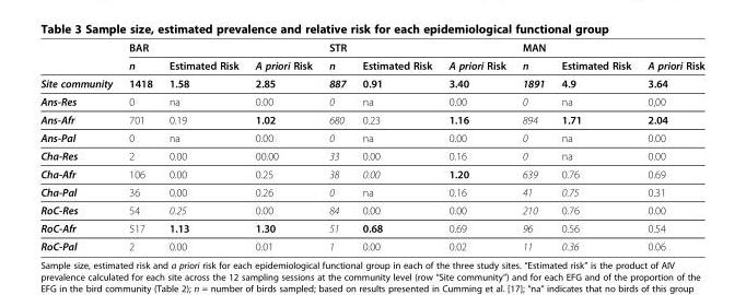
<table><thead><tr><td rowspan="2"></td><td colspan="3">BAR</td><td colspan="3">STR</td><td colspan="3">MAN</td></tr><tr><td>n</td><td>Estimated Risk</td><td>A priori Risk</td><td>n</td><td>Estimated Risk</td><td>A priori Risk</td><td>n</td><td>Estimated Risk</td><td>A priori Risk</td></tr></thead><tbody><tr><td>Site community</td><td>1418</td><td>1.58</td><td>2.85</td><td>887</td><td>0.91</td><td>3.40</td><td>1891</td><td>4.9</td><td>3.64</td></tr><tr><td>Ans-Res</td><td>0</td><td>na</td><td>0.00</td><td>0</td><td>na</td><td>0.00</td><td>0</td><td>na</td><td>0,00</td></tr><tr><td>Ans-Afr</td><td>701</td><td>0.19</td><td>1.02</td><td>680</td><td>0.23</td><td>1.16</td><td>894</td><td>1.71</td><td>2.04</td></tr><tr><td>Ans-Pal</td><td>0</td><td>na</td><td>0.00</td><td>0</td><td>na</td><td>0.00</td><td>0</td><td>na</td><td>0.00</td></tr><tr><td>Cha-Res</td><td>2</td><td>0.00</td><td>00.00</td><td>33</td><td>0.00</td><td>0.16</td><td>0</td><td>na</td><td>0.00</td></tr><tr><td>Cha-Afr</td><td>106</td><td>0.00</td><td>0.25</td><td>38</td><td>0.00</td><td>1.20</td><td>639</td><td>0.76</td><td>0.69</td></tr><tr><td>Cha-Pal</td><td>36</td><td>0.00</td><td>0.26</td><td>0</td><td>na</td><td>0.16</td><td>41</td><td>0.75</td><td>0.31</td></tr><tr><td>RoC-Res</td><td>54</td><td>0.25</td><td>0.00</td><td>84</td><td>0.00</td><td>0.00</td><td>210</td><td>0.76</td><td>0.00</td></tr><tr><td>RoC-Afr</td><td>517</td><td>1.13</td><td>1.30</td><td>51</td><td>0.68</td><td>0.69</td><td>96</td><td>0.56</td><td>0.54</td></tr><tr><td>RoC-Pal</td><td>2</td><td>0.00</td><td>0.01</td><td>1</td><td>0.00</td><td>0.02</td><td>11</td><td>0.36</td><td>0.06</td></tr></tbody></table>